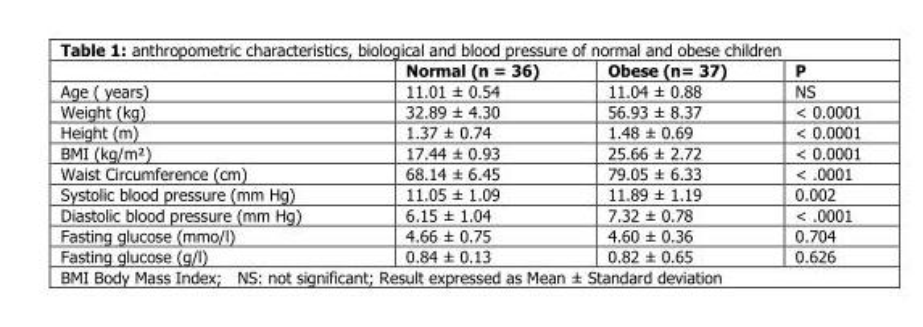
<table><thead><tr><td></td><td>Normal (n = 36)</td><td>Obese (n= 37)</td><td>P</td></tr></thead><tbody><tr><td>Age ( years)</td><td>11.01 ± 0.54</td><td>11.04 ± 0.88</td><td>NS</td></tr><tr><td>Weight (kg)</td><td>32.89 ± 4.30</td><td>56.93 ± 8.37</td><td>&lt; 0.0001</td></tr><tr><td>Height (m)</td><td>1.37 ± 0.74</td><td>1.48 ± 0.69</td><td>&lt; 0.0001</td></tr><tr><td>BMI (kg/m²)</td><td>17.44 ± 0.93</td><td>25.66 ± 2.72</td><td>&lt; 0.0001</td></tr><tr><td>Waist Circumference (cm)</td><td>68.14 ± 6.45</td><td>79.05 ± 6.33</td><td>&lt; .0001</td></tr><tr><td>Systolic blood pressure (mm Hg)</td><td>11.05 ± 1.09</td><td>11.89 ± 1.19</td><td>0.002</td></tr><tr><td>Diastolic blood pressure (mm Hg)</td><td>6.15 ± 1.04</td><td>7.32 ± 0.78</td><td>&lt; .0001</td></tr><tr><td>Fasting glucose (mmo/l)</td><td>4.66 ± 0.75</td><td>4.60 ± 0.36</td><td>0.704</td></tr><tr><td>Fasting glucose (g/l)</td><td>0.84 ± 0.13</td><td>0.82 ± 0.65</td><td>0.626</td></tr></tbody></table>